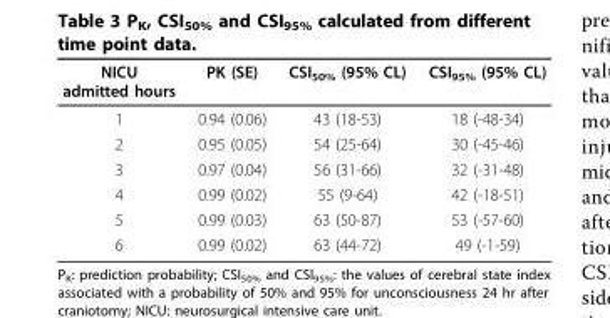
<table><thead><tr><td>NICU admitted hours</td><td>PK (SE)</td><td>CSI<sub>50%</sub> (95% CL)</td><td>CSI<sub>95%</sub> (95% CL)</td></tr></thead><tbody><tr><td>1</td><td>0.94 (0.06)</td><td>43 (18-53)</td><td>18 (-48-34)</td></tr><tr><td>2</td><td>0.95 (0.05)</td><td>54 (25-64)</td><td>30 (-45-46)</td></tr><tr><td>3</td><td>0.97 (0.04)</td><td>56 (31-66)</td><td>32 (-31-48)</td></tr><tr><td>4</td><td>0.99 (0.02)</td><td>55 (9-64)</td><td>42 (-18-51)</td></tr><tr><td>5</td><td>0.99 (0.03)</td><td>63 (50-87)</td><td>53 (-57-60)</td></tr><tr><td>6</td><td>0.99 (0.02)</td><td>63 (44-72)</td><td>49 (-1-59)</td></tr></tbody></table>